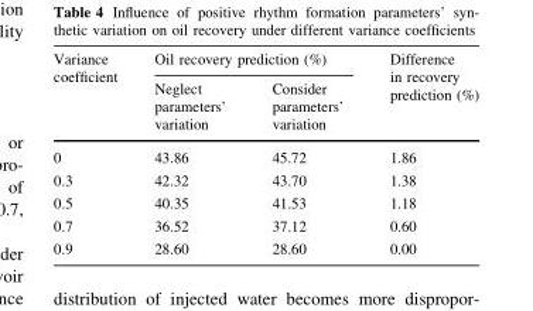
<table><thead><tr><td rowspan="2">Variance coefficient</td><td colspan="2">Oil recovery prediction (%)</td><td rowspan="2">Difference in recovery prediction (%)</td></tr><tr><td>Neglect parameters’ variation</td><td>Consider parameters’ variation</td></tr></thead><tbody><tr><td>0</td><td>43.86</td><td>45.72</td><td>1.86</td></tr><tr><td>0.3</td><td>42.32</td><td>43.70</td><td>1.38</td></tr><tr><td>0.5</td><td>40.35</td><td>41.53</td><td>1.18</td></tr><tr><td>0.7</td><td>36.52</td><td>37.12</td><td>0.60</td></tr><tr><td>0.9</td><td>28.60</td><td>28.60</td><td>0.00</td></tr></tbody></table>